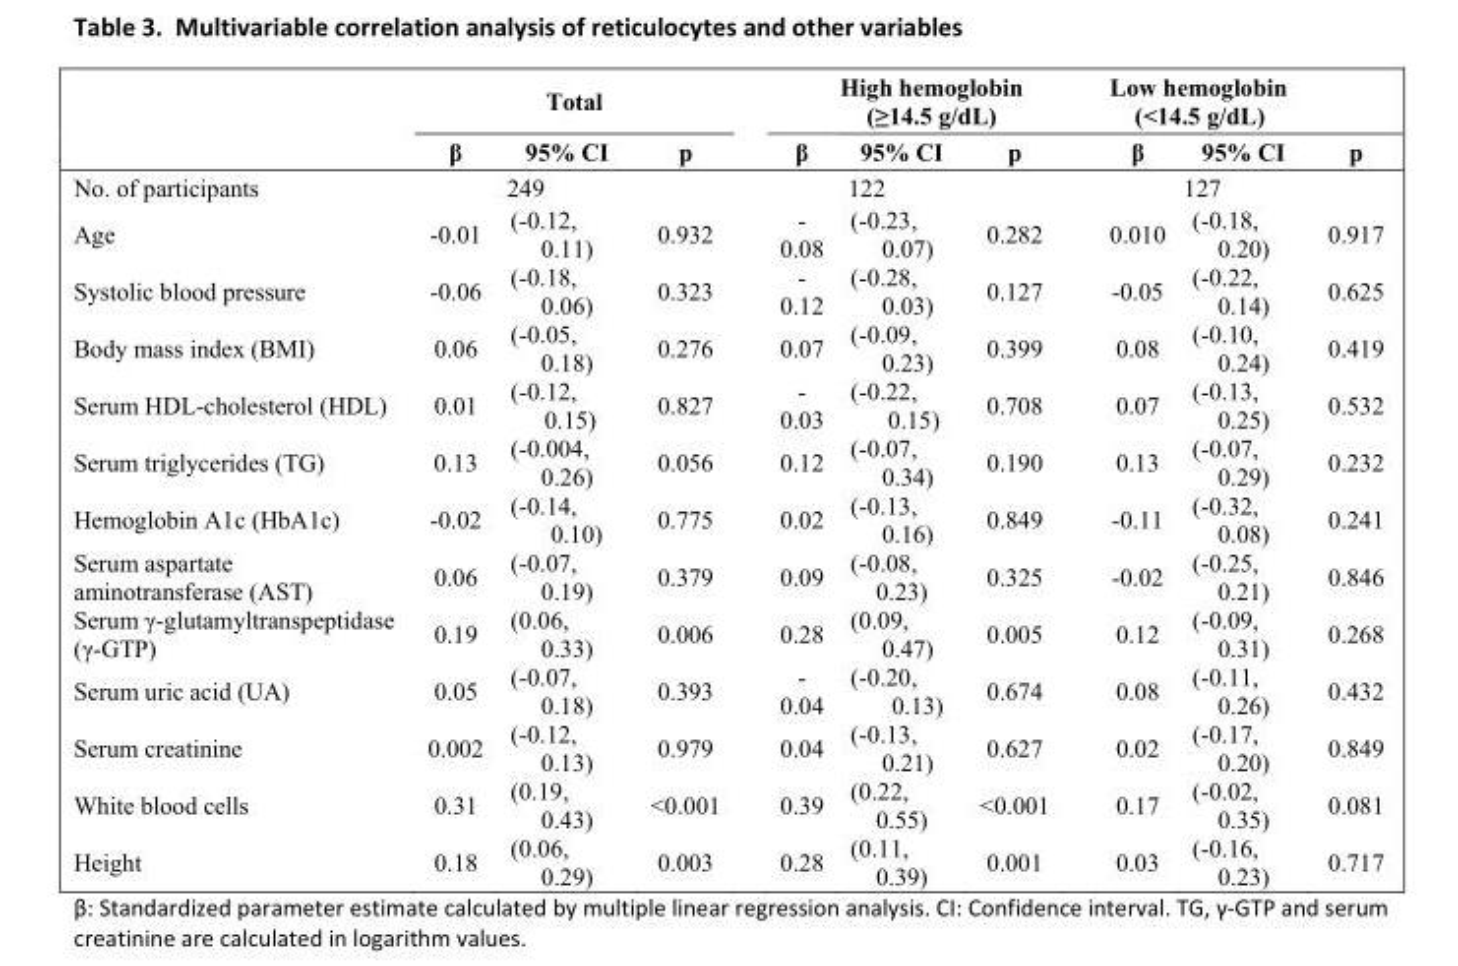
<table><thead><tr><td rowspan="2"></td><td colspan="3">Total</td><td colspan="3">High hemoglobin (≥14.5 g/dL)</td><td colspan="3">Low hemoglobin (&lt;14.5 g/dL)</td></tr><tr><td>β</td><td>95% CI</td><td>p</td><td>β</td><td>95% CI</td><td>p</td><td>β</td><td>95% CI</td><td>p</td></tr></thead><tbody><tr><td>No. of participants</td><td colspan="3">249</td><td colspan="3">122</td><td colspan="3">127</td></tr><tr><td>Age</td><td>-0.01</td><td>(-0.12, 0.11)</td><td>0.932</td><td>- 0.08</td><td>(-0.23, 0.07)</td><td>0.282</td><td>0.010</td><td>(-0.18, 0.20)</td><td>0.917</td></tr><tr><td>Systolic blood pressure</td><td>-0.06</td><td>(-0.18, 0.06)</td><td>0.323</td><td>- 0.12</td><td>(-0.28, 0.03)</td><td>0.127</td><td>-0.05</td><td>(-0.22, 0.14)</td><td>0.625</td></tr><tr><td>Body mass index (BMI)</td><td>0.06</td><td>(-0.05, 0.18)</td><td>0.276</td><td>0.07</td><td>(-0.09, 0.23)</td><td>0.399</td><td>0.08</td><td>(-0.10, 0.24)</td><td>0.419</td></tr><tr><td>Serum HDL-cholesterol (HDL)</td><td>0.01</td><td>(-0.12, 0.15)</td><td>0.827</td><td>- 0.03</td><td>(-0.22, 0.15)</td><td>0.708</td><td>0.07</td><td>(-0.13, 0.25)</td><td>0.532</td></tr><tr><td>Serum triglycerides (TG)</td><td>0.13</td><td>(-0.004, 0.26)</td><td>0.056</td><td>0.12</td><td>(-0.07, 0.34)</td><td>0.190</td><td>0.13</td><td>(-0.07, 0.29)</td><td>0.232</td></tr><tr><td>Hemoglobin A1c (HbA1c)</td><td>-0.02</td><td>(-0.14, 0.10)</td><td>0.775</td><td>0.02</td><td>(-0.13, 0.16)</td><td>0.849</td><td>-0.11</td><td>(-0.32, 0.08)</td><td>0.241</td></tr><tr><td>Serum aspartate aminotransferase (AST)</td><td>0.06</td><td>(-0.07, 0.19)</td><td>0.379</td><td>0.09</td><td>(-0.08, 0.23)</td><td>0.325</td><td>-0.02</td><td>(-0.25, 0.21)</td><td>0.846</td></tr><tr><td>Serum γ-glutamyltranspeptidase (γ-GTP)</td><td>0.19</td><td>(0.06, 0.33)</td><td>0.006</td><td>0.28</td><td>(0.09, 0.47)</td><td>0.005</td><td>0.12</td><td>(-0.09, 0.31)</td><td>0.268</td></tr><tr><td>Serum uric acid (UA)</td><td>0.05</td><td>(-0.07, 0.18)</td><td>0.393</td><td>- 0.04</td><td>(-0.20, 0.13)</td><td>0.674</td><td>0.08</td><td>(-0.11, 0.26)</td><td>0.432</td></tr><tr><td>Serum creatinine</td><td>0.002</td><td>(-0.12, 0.13)</td><td>0.979</td><td>0.04</td><td>(-0.13, 0.21)</td><td>0.627</td><td>0.02</td><td>(-0.17, 0.20)</td><td>0.849</td></tr><tr><td>White blood cells</td><td>0.31</td><td>(0.19, 0.43)</td><td>&lt;0.001</td><td>0.39</td><td>(0.22, 0.55)</td><td>&lt;0.001</td><td>0.17</td><td>(-0.02, 0.35)</td><td>0.081</td></tr><tr><td>Height</td><td>0.18</td><td>(0.06, 0.29)</td><td>0.003</td><td>0.28</td><td>(0.11, 0.39)</td><td>0.001</td><td>0.03</td><td>(-0.16, 0.23)</td><td>0.717</td></tr></tbody></table>